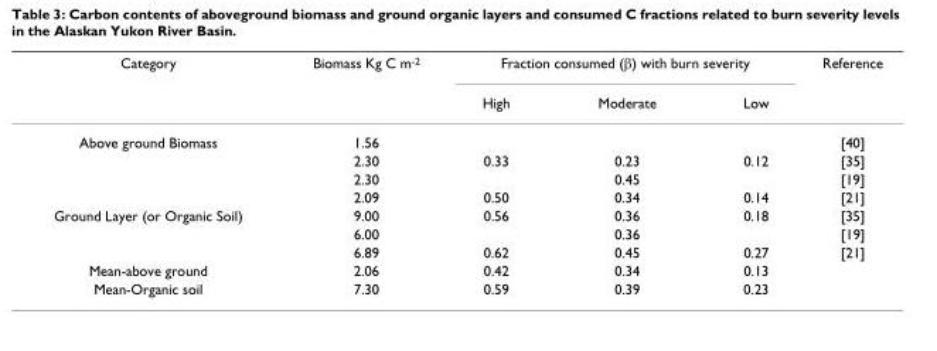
<table><thead><tr><td rowspan="2">Category</td><td rowspan="2">Biomass Kg C m<sup>-2</sup></td><td colspan="3">Fraction consumed (β) with burn severity</td><td rowspan="2">Reference</td></tr><tr><td>High</td><td>Moderate</td><td>Low</td></tr></thead><tbody><tr><td rowspan="4">Above ground Biomass</td><td>1.56</td><td></td><td></td><td></td><td>[40]</td></tr><tr><td>2.30</td><td>0.33</td><td>0.23</td><td>0.12</td><td>[35]</td></tr><tr><td>2.30</td><td></td><td>0.45</td><td></td><td>[19]</td></tr><tr><td>2.09</td><td>0.50</td><td>0.34</td><td>0.14</td><td>[21]</td></tr><tr><td rowspan="3">Ground Layer (or Organic Soil)</td><td>9.00</td><td>0.56</td><td>0.36</td><td>0.18</td><td>[35]</td></tr><tr><td>6.00</td><td></td><td>0.36</td><td></td><td>[19]</td></tr><tr><td>6.89</td><td>0.62</td><td>0.45</td><td>0.27</td><td>[21]</td></tr><tr><td>Mean-above ground</td><td>2.06</td><td>0.42</td><td>0.34</td><td>0.13</td><td></td></tr><tr><td>Mean-Organic soil</td><td>7.30</td><td>0.59</td><td>0.39</td><td>0.23</td><td></td></tr></tbody></table>